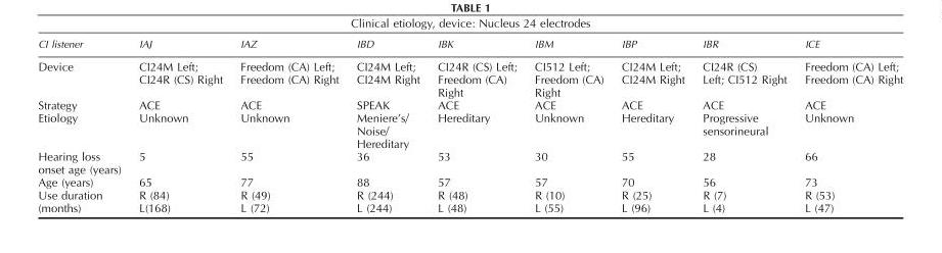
<table><thead><tr><td>CI listener</td><td>IAJ</td><td>IAZ</td><td>IBD</td><td>IBK</td><td>IBM</td><td>IBP</td><td>IBR</td><td>ICE</td></tr></thead><tbody><tr><td>Device</td><td>CI24M Left; CI24R (CS) Right</td><td>Freedom (CA) Left; Freedom (CA) Right</td><td>CI24M Left; CI24M Right</td><td>CI24R (CS) Left; Freedom (CA) Right</td><td>CI512 Left; Freedom (CA) Right</td><td>CI24M Left; CI24M Right</td><td>CI24R (CS) Left; CI512 Right</td><td>Freedom (CA) Left; Freedom (CA) Right</td></tr><tr><td>Strategy</td><td>ACE</td><td>ACE</td><td>SPEAK</td><td>ACE</td><td>ACE</td><td>ACE</td><td>ACE</td><td>ACE</td></tr><tr><td>Etiology</td><td>Unknown</td><td>Unknown</td><td>Meniere’s/ Noise/ Hereditary</td><td>Hereditary</td><td>Unknown</td><td>Hereditary</td><td>Progressive sensorineural</td><td>Unknown</td></tr><tr><td>Hearing loss onset age (years)</td><td>5</td><td>55</td><td>36</td><td>53</td><td>30</td><td>55</td><td>28</td><td>66</td></tr><tr><td>Age (years)</td><td>65</td><td>77</td><td>88</td><td>57</td><td>57</td><td>70</td><td>56</td><td>73</td></tr><tr><td rowspan="2">Use duration (months)</td><td>R (84)</td><td>R (49)</td><td>R (244)</td><td>R (48)</td><td>R (10)</td><td>R (25)</td><td>R (7)</td><td>R (53)</td></tr><tr><td>L(168)</td><td>L (72)</td><td>L (244)</td><td>L (48)</td><td>L (55)</td><td>L (96)</td><td>L (4)</td><td>L (47)</td></tr></tbody></table>